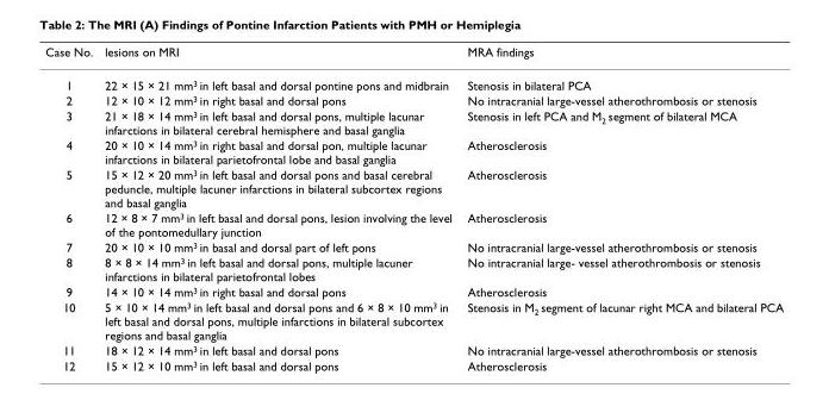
<table><thead><tr><td>Case No.</td><td>lesions on MRI</td><td>MRA findings</td></tr></thead><tbody><tr><td>1</td><td>22 × 15 × 21 mm<sup>3</sup> in left basal and dorsal pontine pons and midbrain</td><td>Stenosis in bilateral PCA</td></tr><tr><td>2</td><td>12 × 10 × 12 mm<sup>3</sup> in right basal and dorsal pons</td><td>No intracranial large-vessel atherothrombosis or stenosis</td></tr><tr><td>3</td><td>21 × 18 × 14 mm<sup>3</sup> in left basal and dorsal pons, multiple lacunar infarctions in bilateral cerebral hemisphere and basal ganglia</td><td>Stenosis in left PCA and M<sub>2</sub> segment of bilateral MCA</td></tr><tr><td>4</td><td>20 × 10 × 14 mm<sup>3</sup> in right basal and dorsal pon, multiple lacunar infarctions in bilateral parietofrontal lobe and basal ganglia</td><td>Atherosclerosis</td></tr><tr><td>5</td><td>15 × 12 × 20 mm<sup>3</sup> in left basal and dorsal pons and basal cerebral peduncle, multiple lacuner infarctions in bilateral subcortex regions and basal ganglia</td><td>Atherosclerosis</td></tr><tr><td>6</td><td>12 × 8 × 7 mm<sup>3</sup> in left basal and dorsal pons, lesion involving the level of the pontomedullary junction</td><td>Atherosclerosis</td></tr><tr><td>7</td><td>20 × 10 × 10 mm<sup>3</sup> in basal and dorsal part of left pons</td><td>No intracranial large-vessel atherothrombosis or stenosis</td></tr><tr><td>8</td><td>8 × 8 × 14 mm<sup>3</sup> in left basal and dorsal pons, multiple lacuner infarctions in bilateral parietofrontal lobes</td><td>No intracranial large- vessel atherothrombosis or stenosis</td></tr><tr><td>9</td><td>14 × 10 × 14 mm<sup>3</sup> in right basal and dorsal pons</td><td>Atherosclerosis</td></tr><tr><td>10</td><td>5 × 10 × 14 mm<sup>3</sup> in left basal and dorsal pons and 6 × 8 × 10 mm<sup>3</sup> in left basal and dorsal pons, multiple infarctions in bilateral subcortex regions and basal ganglia</td><td>Stenosis in M<sub>2</sub> segment of lacunar right MCA and bilateral PCA</td></tr><tr><td>11</td><td>18 × 12 × 14 mm<sup>3</sup> in left basal and dorsal pons</td><td>No intracranial large-vessel atherothrombosis or stenosis</td></tr><tr><td>12</td><td>15 × 12 × 10 mm<sup>3</sup> in left basal and dorsal pons</td><td>Atherosclerosis</td></tr></tbody></table>